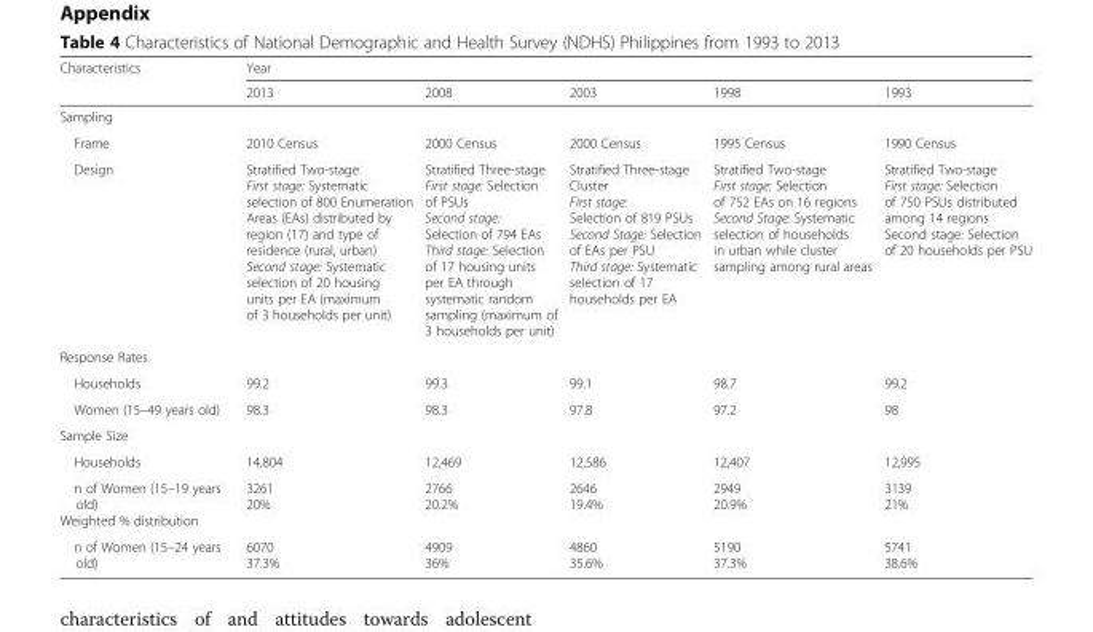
<table><thead><tr><td rowspan="2">Characteristics</td><td colspan="5">Year</td></tr><tr><td>2013</td><td>2008</td><td>2003</td><td>1998</td><td>1993</td></tr></thead><tbody><tr><td colspan="6">Sampling</td></tr><tr><td>Frame</td><td>2010 Census</td><td>2000 Census</td><td>2000 Census</td><td>1995 Census</td><td>1990 Census</td></tr><tr><td>Design</td><td>Stratified Two-stage First stage: Systematic selection of 800 Enumeration Areas (EAs) distributed by region (17) and type of residence (rural, urban) Second stage: Systematic selection of 20 housing units per EA (maximum of 3 households per unit)</td><td>Stratified Three-stage First stage: Selection of PSUs Second stage: Selection of 794 EAs Third stage: Selection of 17 housing units per EA through systematic random sampling (maximum of 3 households per unit)</td><td>Stratified Three-stage Cluster First stage: Selection of 819 PSUs Second Stage: Selection of EAs per PSU Third stage: Systematic selection of 17 households per EA</td><td>Stratified Two-stage First stage: Selection of 752 EAs on 16 regions Second Stage: Systematic selection of households in urban while cluster sampling among rural areas</td><td>Stratified Two-stage First stage: Selection of 750 PSUs distributed among 14 regions Second stage: Selection of 20 households per PSU</td></tr><tr><td colspan="6">Response Rates</td></tr><tr><td>Households</td><td>99.2</td><td>99.3</td><td>99.1</td><td>98.7</td><td>99.2</td></tr><tr><td>Women (15–49 years old)</td><td>98.3</td><td>98.3</td><td>97.8</td><td>97.2</td><td>98</td></tr><tr><td colspan="6">Sample Size</td></tr><tr><td>Households</td><td>14,804</td><td>12,469</td><td>12,586</td><td>12,407</td><td>12,995</td></tr><tr><td>n of Women (15–19 years old) Weighted % distribution</td><td>3261 20%</td><td>2766 20.2%</td><td>2646 19.4%</td><td>2949 20.9%</td><td>3139 21%</td></tr><tr><td>n of Women (15–24 years old)</td><td>6070 37.3%</td><td>4909 36%</td><td>4860 35.6%</td><td>5190 37.3%</td><td>5741 38.6%</td></tr></tbody></table>